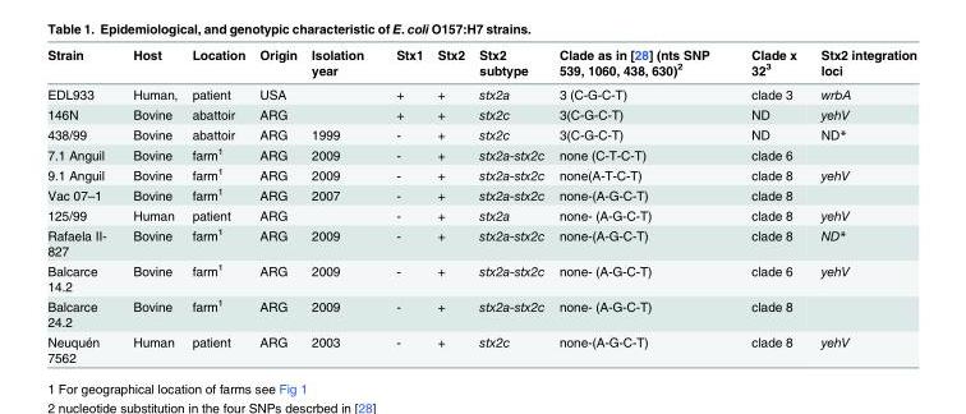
<table><thead><tr><td>Strain</td><td>Host</td><td>Location</td><td>Origin</td><td>Isolation year</td><td>Stx1</td><td>Stx2</td><td>Stx2 subtype</td><td>Clade as in [28] (nts SNP 539, 1060, 438, 630)<sup>2</sup></td><td>Clade x 32<sup>3</sup></td><td>Stx2 integration loci</td></tr></thead><tbody><tr><td>EDL933</td><td>Human,</td><td>patient</td><td>USA</td><td></td><td>+</td><td>+</td><td>stx2a</td><td>3 (C-G-C-T)</td><td>clade 3</td><td>wrbA</td></tr><tr><td>146N</td><td>Bovine</td><td>abattoir</td><td>ARG</td><td></td><td>+</td><td>+</td><td>stx2c</td><td>3(C-G-C-T)</td><td>ND</td><td>yehV</td></tr><tr><td>438/99</td><td>Bovine</td><td>abattoir</td><td>ARG</td><td>1999</td><td>-</td><td>+</td><td>stx2c</td><td>3(C-G-C-T)</td><td>ND</td><td>ND*</td></tr><tr><td>7.1 Anguil</td><td>Bovine</td><td>farm<sup>1</sup></td><td>ARG</td><td>2009</td><td>-</td><td>+</td><td>stx2a-stx2c</td><td>none (C-T-C-T)</td><td>clade 6</td><td></td></tr><tr><td>9.1 Anguil</td><td>Bovine</td><td>farm<sup>1</sup></td><td>ARG</td><td>2009</td><td>-</td><td>+</td><td>stx2a-stx2c</td><td>none(A-T-C-T)</td><td>clade 8</td><td>yehV</td></tr><tr><td>Vac 07–1</td><td>Bovine</td><td>farm<sup>1</sup></td><td>ARG</td><td>2007</td><td>-</td><td>+</td><td>stx2a-stx2c</td><td>none-(A-G-C-T)</td><td>clade 8</td><td></td></tr><tr><td>125/99</td><td>Human</td><td>patient</td><td>ARG</td><td></td><td>-</td><td>+</td><td>stx2a</td><td>none- (A-G-C-T)</td><td>clade 8</td><td>yehV</td></tr><tr><td>Rafaela II- 827</td><td>Bovine</td><td>farm<sup>1</sup></td><td>ARG</td><td>2009</td><td>-</td><td>+</td><td>stx2a-stx2c</td><td>none-(A-G-C-T)</td><td>clade 8</td><td>ND*</td></tr><tr><td>Balcarce 14.2</td><td>Bovine</td><td>farm<sup>1</sup></td><td>ARG</td><td>2009</td><td>-</td><td>+</td><td>stx2a-stx2c</td><td>none- (A-G-C-T)</td><td>clade 6</td><td>yehV</td></tr><tr><td>Balcarce 24.2</td><td>Bovine</td><td>farm<sup>1</sup></td><td>ARG</td><td>2009</td><td>-</td><td>+</td><td>stx2a-stx2c</td><td>none- (A-G-C-T)</td><td>clade 8</td><td></td></tr><tr><td>Neuquén 7562</td><td>Human</td><td>patient</td><td>ARG</td><td>2003</td><td>-</td><td>+</td><td>stx2c</td><td>none-(A-G-C-T)</td><td>clade 8</td><td>yehV</td></tr></tbody></table>